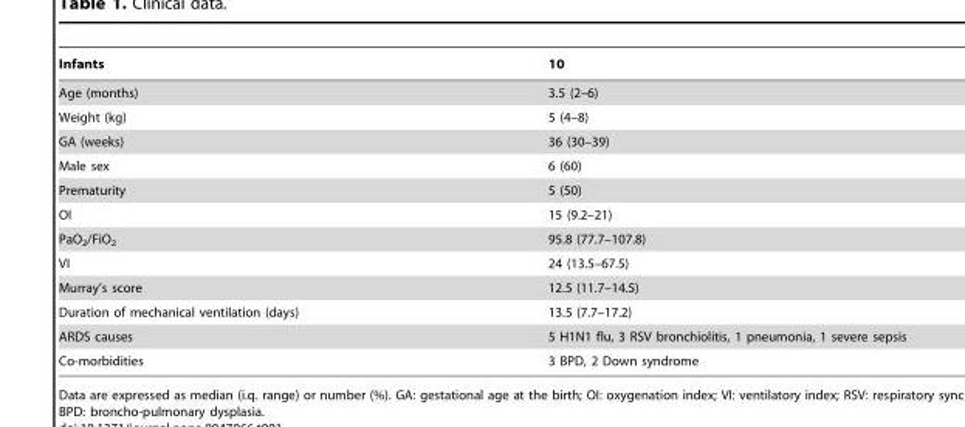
<table><thead><tr><td>Infants</td><td>10</td></tr></thead><tbody><tr><td>Age (months)</td><td>3.5 (2–6)</td></tr><tr><td>Weight (kg)</td><td>5 (4–8)</td></tr><tr><td>GA (weeks)</td><td>36 (30–39)</td></tr><tr><td>Male sex</td><td>6 (60)</td></tr><tr><td>Prematurity</td><td>5 (50)</td></tr><tr><td>OI</td><td>15 (9.2–21)</td></tr><tr><td>PaO<sub>2</sub>/FiO<sub>2</sub></td><td>95.8 (77.7–107.8)</td></tr><tr><td>VI</td><td>24 (13.5–67.5)</td></tr><tr><td>Murray’s score</td><td>12.5 (11.7–14.5)</td></tr><tr><td>Duration of mechanical ventilation (days)</td><td>13.5 (7.7–17.2)</td></tr><tr><td>ARDS causes</td><td>5 H1N1 flu, 3 RSV bronchiolitis, 1 pneumonia, 1 severe sepsis</td></tr><tr><td>Co-morbidities</td><td>3 BPD, 2 Down syndrome</td></tr></tbody></table>